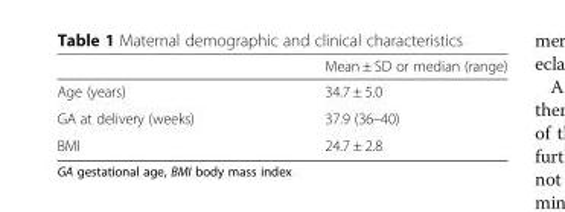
<table><thead><tr><td></td><td>Mean ± SD or median (range)</td></tr></thead><tbody><tr><td>Age (years)</td><td>34.7 ± 5.0</td></tr><tr><td>GA at delivery (weeks)</td><td>37.9 (36–40)</td></tr><tr><td>BMI</td><td>24.7 ± 2.8</td></tr></tbody></table>